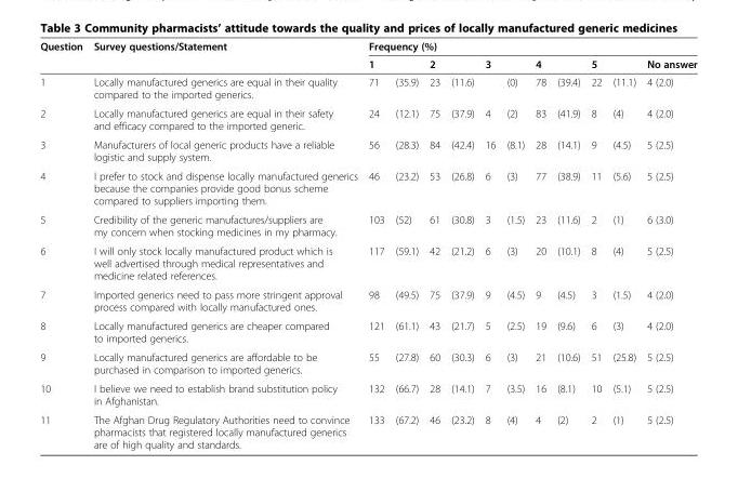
<table><thead><tr><td rowspan="3">Question 1</td><td rowspan="3">Survey questions/Statement Locally manufactured generics are equal in their quality compared to the imported generics.</td><td colspan="11">Frequency (%)</td></tr><tr><td colspan="2">1</td><td colspan="2">2</td><td colspan="2">3</td><td colspan="2">4</td><td colspan="2">5</td><td rowspan="2">No answer 4 (2.0)</td></tr><tr><td>71</td><td>(35.9)</td><td>23</td><td>(11.6)</td><td></td><td>(0)</td><td>78</td><td>(39.4)</td><td>22</td><td>(11.1)</td></tr></thead><tbody><tr><td>2</td><td>Locally manufactured generics are equal in their safety and efficacy compared to the imported generic.</td><td>24</td><td>(12.1)</td><td>75</td><td>(37.9)</td><td>4</td><td>(2)</td><td>83</td><td>(41.9)</td><td>8</td><td>(4)</td><td>4 (2.0)</td></tr><tr><td>3</td><td>Manufacturers of local generic products have a reliable logistic and supply system.</td><td>56</td><td>(28.3)</td><td>84</td><td>(42.4)</td><td>16</td><td>(8.1)</td><td>28</td><td>(14.1)</td><td>9</td><td>(4.5)</td><td>5 (2.5)</td></tr><tr><td>4</td><td>I prefer to stock and dispense locally manufactured generics because the companies provide good bonus scheme compared to suppliers importing them.</td><td>46</td><td>(23.2)</td><td>53</td><td>(26.8)</td><td>6</td><td>(3)</td><td>77</td><td>(38.9)</td><td>11</td><td>(5.6)</td><td>5 (2.5)</td></tr><tr><td>5</td><td>Credibility of the generic manufactures/suppliers are my concern when stocking medicines in my pharmacy.</td><td>103</td><td>(52)</td><td>61</td><td>(30.8)</td><td>3</td><td>(1.5)</td><td>23</td><td>(11.6)</td><td>2</td><td>(1)</td><td>6 (3.0)</td></tr><tr><td>6</td><td>I will only stock locally manufactured product which is well advertised through medical representatives and medicine related references.</td><td>117</td><td>(59.1)</td><td>42</td><td>(21.2)</td><td>6</td><td>(3)</td><td>20</td><td>(10.1)</td><td>8</td><td>(4)</td><td>5 (2.5)</td></tr><tr><td>7</td><td>Imported generics need to pass more stringent approval process compared with locally manufactured ones.</td><td>98</td><td>(49.5)</td><td>75</td><td>(37.9)</td><td>9</td><td>(4.5)</td><td>9</td><td>(4.5)</td><td>3</td><td>(1.5)</td><td>4 (2.0)</td></tr><tr><td>8</td><td>Locally manufactured generics are cheaper compared to imported generics.</td><td>121</td><td>(61.1)</td><td>43</td><td>(21.7)</td><td>5</td><td>(2.5)</td><td>19</td><td>(9.6)</td><td>6</td><td>(3)</td><td>4 (2.0)</td></tr><tr><td>9</td><td>Locally manufactured generics are affordable to be purchased in comparison to imported generics.</td><td>55</td><td>(27.8)</td><td>60</td><td>(30.3)</td><td>6</td><td>(3)</td><td>21</td><td>(10.6)</td><td>51</td><td>(25.8)</td><td>5 (2.5)</td></tr><tr><td>10</td><td>I believe we need to establish brand substitution policy in Afghanistan.</td><td>132</td><td>(66.7)</td><td>28</td><td>(14.1)</td><td>7</td><td>(3.5)</td><td>16</td><td>(8.1)</td><td>10</td><td>(5.1)</td><td>5 (2.5)</td></tr><tr><td>11</td><td>The Afghan Drug Regulatory Authorities need to convince pharmacists that registered locally manufactured generics are of high quality and standards.</td><td>133</td><td>(67.2)</td><td>46</td><td>(23.2)</td><td>8</td><td>(4)</td><td>4</td><td>(2)</td><td>2</td><td>(1)</td><td>5 (2.5)</td></tr></tbody></table>